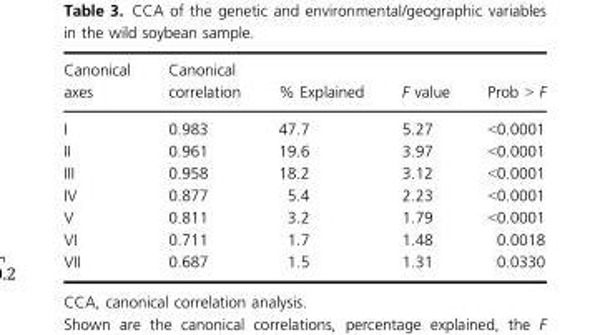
<table><thead><tr><td>Canonical axes</td><td>Canonical correlation</td><td>% Explained</td><td>F value</td><td>Prob &gt; F</td></tr></thead><tbody><tr><td>I</td><td>0.983</td><td>47.7</td><td>5.27</td><td>&lt;0.0001</td></tr><tr><td>II</td><td>0.961</td><td>19.6</td><td>3.97</td><td>&lt;0.0001</td></tr><tr><td>III</td><td>0.958</td><td>18.2</td><td>3.12</td><td>&lt;0.0001</td></tr><tr><td>IV</td><td>0.877</td><td>5.4</td><td>2.23</td><td>&lt;0.0001</td></tr><tr><td>V</td><td>0.811</td><td>3.2</td><td>1.79</td><td>&lt;0.0001</td></tr><tr><td>VI</td><td>0.711</td><td>1.7</td><td>1.48</td><td>0.0018</td></tr><tr><td>VII</td><td>0.687</td><td>1.5</td><td>1.31</td><td>0.0330</td></tr></tbody></table>